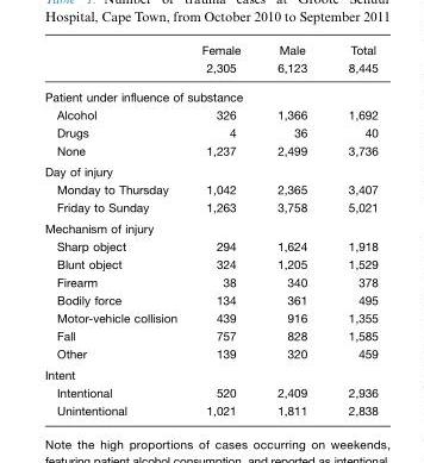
<table><thead><tr><td rowspan="2"></td><td rowspan="2">Female 2,305</td><td rowspan="2">Male 6,123</td><td rowspan="2">Total 8,445</td></tr><tr></tr></thead><tbody><tr><td colspan="4">Patient under influence of substance</td></tr><tr><td>Alcohol</td><td>326</td><td>1,366</td><td>1,692</td></tr><tr><td>Drugs</td><td>4</td><td>36</td><td>40</td></tr><tr><td>None</td><td>1,237</td><td>2,499</td><td>3,736</td></tr><tr><td colspan="4">Day of injury</td></tr><tr><td>Monday to Thursday</td><td>1,042</td><td>2,365</td><td>3,407</td></tr><tr><td>Friday to Sunday</td><td>1,263</td><td>3,758</td><td>5,021</td></tr><tr><td colspan="4">Mechanism of injury</td></tr><tr><td>Sharp object</td><td>294</td><td>1,624</td><td>1,918</td></tr><tr><td>Blunt object</td><td>324</td><td>1,205</td><td>1,529</td></tr><tr><td>Firearm</td><td>38</td><td>340</td><td>378</td></tr><tr><td>Bodily force</td><td>134</td><td>361</td><td>495</td></tr><tr><td>Motor-vehicle collision</td><td>439</td><td>916</td><td>1,355</td></tr><tr><td>Fall</td><td>757</td><td>828</td><td>1,585</td></tr><tr><td>Other</td><td>139</td><td>320</td><td>459</td></tr><tr><td colspan="4">Intent</td></tr><tr><td>Intentional</td><td>520</td><td>2,409</td><td>2,936</td></tr><tr><td>Unintentional</td><td>1,021</td><td>1,811</td><td>2,838</td></tr></tbody></table>